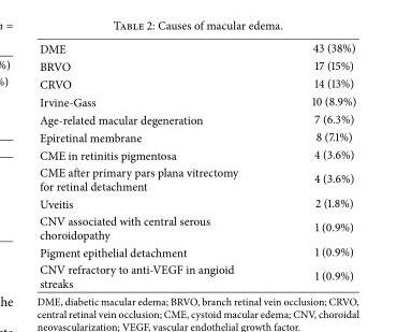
<table><tbody><tr><td>DME</td><td>43 (38%)</td></tr><tr><td>BRVO</td><td>17 (15%)</td></tr><tr><td>CRVO</td><td>14 (13%)</td></tr><tr><td>Irvine-Gass</td><td>10 (8.9%)</td></tr><tr><td>Age-related macular degeneration</td><td>7 (6.3%)</td></tr><tr><td>Epiretinal membrane</td><td>8 (7.1%)</td></tr><tr><td>CME in retinitis pigmentosa</td><td>4 (3.6%)</td></tr><tr><td>CME after primary pars plana vitrectomy for retinal detachment</td><td>4 (3.6%)</td></tr><tr><td>Uveitis</td><td>2 (1.8%)</td></tr><tr><td>CNV associated with central serous choroidopathy</td><td>1 (0.9%)</td></tr><tr><td>Pigment epithelial detachment</td><td>1 (0.9%)</td></tr><tr><td>CNV refractory to anti-VEGF in angioid streaks</td><td>1 (0.9%)</td></tr></tbody></table>